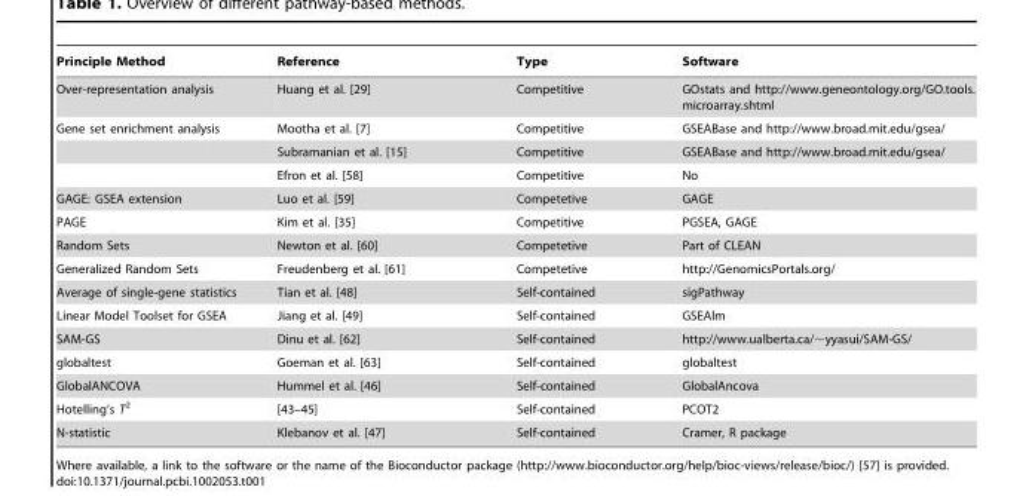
<table><thead><tr><td>Principle Method</td><td>Reference</td><td>Type</td><td>Software</td></tr></thead><tbody><tr><td>Over-representation analysis</td><td>Huang et al. [29]</td><td>Competitive</td><td>GOstats and http://www.geneontology.org/GO.tools. microarray.shtml</td></tr><tr><td rowspan="3">Gene set enrichment analysis</td><td>Mootha et al. [7]</td><td>Competitive</td><td>GSEABase and http://www.broad.mit.edu/gsea/</td></tr><tr><td>Subramanian et al. [15]</td><td>Competitive</td><td>GSEABase and http://www.broad.mit.edu/gsea/</td></tr><tr><td>Efron et al. [58]</td><td>Competitive</td><td>No</td></tr><tr><td>GAGE: GSEA extension</td><td>Luo et al. [59]</td><td>Competetive</td><td>GAGE</td></tr><tr><td>PAGE</td><td>Kim et al. [35]</td><td>Competitive</td><td>PGSEA, GAGE</td></tr><tr><td>Random Sets</td><td>Newton et al. [60]</td><td>Competetive</td><td>Part of CLEAN</td></tr><tr><td>Generalized Random Sets</td><td>Freudenberg et al. [61]</td><td>Competetive</td><td>http://GenomicsPortals.org/</td></tr><tr><td>Average of single-gene statistics</td><td>Tian et al. [48]</td><td>Self-contained</td><td>sigPathway</td></tr><tr><td>Linear Model Toolset for GSEA</td><td>Jiang et al. [49]</td><td>Self-contained</td><td>GSEAlm</td></tr><tr><td>SAM-GS</td><td>Dinu et al. [62]</td><td>Self-contained</td><td>http://www.ualberta.ca/~yyasui/SAM-GS/</td></tr><tr><td>globaltest</td><td>Goeman et al. [63]</td><td>Self-contained</td><td>globaltest</td></tr><tr><td>GlobalANCOVA</td><td>Hummel et al. [46]</td><td>Self-contained</td><td>GlobalAncova</td></tr><tr><td>Hotelling’s T<sup>2</sup></td><td>[43–45]</td><td>Self-contained</td><td>PCOT2</td></tr><tr><td>N-statistic</td><td>Klebanov et al. [47]</td><td>Self-contained</td><td>Cramer, R package</td></tr></tbody></table>